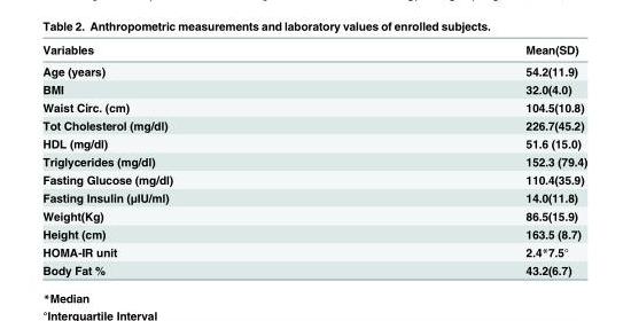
<table><thead><tr><td>Variables</td><td>Mean(SD)</td></tr></thead><tbody><tr><td>Age (years)</td><td>54.2(11.9)</td></tr><tr><td>BMI</td><td>32.0(4.0)</td></tr><tr><td>Waist Circ. (cm)</td><td>104.5(10.8)</td></tr><tr><td>Tot Cholesterol (mg/dl)</td><td>226.7(45.2)</td></tr><tr><td>HDL (mg/dl)</td><td>51.6 (15.0)</td></tr><tr><td>Triglycerides (mg/dl)</td><td>152.3 (79.4)</td></tr><tr><td>Fasting Glucose (mg/dl)</td><td>110.4(35.9)</td></tr><tr><td>Fasting Insulin (μIU/ml)</td><td>14.0(11.8)</td></tr><tr><td>Weight(Kg)</td><td>86.5(15.9)</td></tr><tr><td>Height (cm)</td><td>163.5 (8.7)</td></tr><tr><td>HOMA-IR unit</td><td>2.4*7.5°</td></tr><tr><td>Body Fat %</td><td>43.2(6.7)</td></tr></tbody></table>